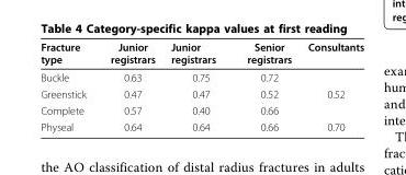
<table><thead><tr><td>Fracture type</td><td>Junior registrars</td><td>Junior registrars</td><td>Senior registrars</td><td>Consultants</td></tr></thead><tbody><tr><td>Buckle</td><td>0.63</td><td>0.75</td><td>0.72</td><td></td></tr><tr><td>Greenstick</td><td>0.47</td><td>0.47</td><td>0.52</td><td>0.52</td></tr><tr><td>Complete</td><td>0.57</td><td>0.40</td><td>0.66</td><td></td></tr><tr><td>Physeal</td><td>0.64</td><td>0.64</td><td>0.66</td><td>0.70</td></tr></tbody></table>